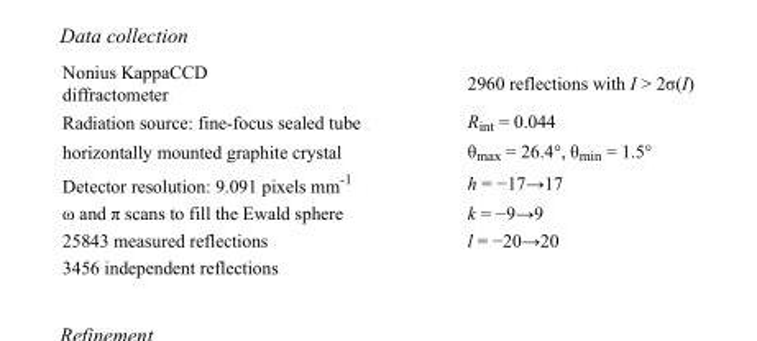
<table><tbody><tr><td>Nonius KappaCCD diffractometer</td><td>2960 reflections with I &gt; 2σ(I)</td></tr><tr><td>Radiation source: fine-focus sealed tube</td><td>R<sub>int</sub> = 0.044</td></tr><tr><td>horizontally mounted graphite crystal</td><td>θ<sub>max</sub> = 26.4°, θ<sub>min</sub> = 1.5°</td></tr><tr><td>Detector resolution: 9.091 pixels mm<sup>-1</sup></td><td>h = −17→17</td></tr><tr><td>ω and π scans to fill the Ewald sphere</td><td>k = −9→9</td></tr><tr><td>25843 measured reflections</td><td>l = −20→20</td></tr><tr><td>3456 independent reflections</td><td></td></tr></tbody></table>